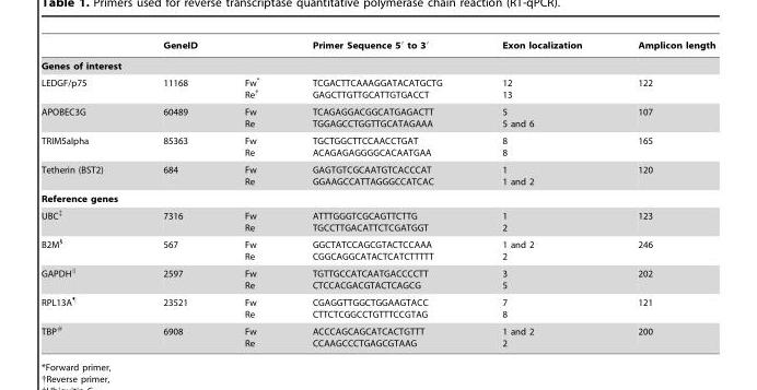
<table><thead><tr><td></td><td>GeneID</td><td></td><td>Primer Sequence 5′ to 3′</td><td>Exon localization</td><td>Amplicon length</td></tr></thead><tbody><tr><td colspan="6">Genes of interest</td></tr><tr><td>LEDGF/p75</td><td>11168</td><td>Fw* Re†</td><td>TCGACTTCAAAGGATACATGCTG GAGCTTGTTGCATTGTGACCT</td><td>12 13</td><td>122</td></tr><tr><td>APOBEC3G</td><td>60489</td><td>Fw Re</td><td>TCAGAGGACGGCATGAGACTT TGGAGCCTGGTTGCATAGAAA</td><td>5 5 and 6</td><td>107</td></tr><tr><td>TRIM5alpha</td><td>85363</td><td>Fw Re</td><td>TGCTGGCTTCCAACCTGAT ACAGAGAGGGGCACAATGAA</td><td>8 8</td><td>165</td></tr><tr><td>Tetherin (BST2)</td><td>684</td><td>Fw Re</td><td>GAGTGTCGCAATGTCACCCAT GGAAGCCATTAGGGCCATCAC</td><td>1 1 and 2</td><td>120</td></tr><tr><td colspan="6">Reference genes</td></tr><tr><td>UBC‡</td><td>7316</td><td>Fw Re</td><td>ATTTGGGTCGCAGTTCTTG TGCCTTGACATTCTCGATGGT</td><td>1 2</td><td>123</td></tr><tr><td>B2M§</td><td>567</td><td>Fw Re</td><td>GGCTATCCAGCGTACTCCAAA CGGCAGGCATACTCATCTTTTT</td><td>1 and 2 2</td><td>246</td></tr><tr><td>GAPDH∥</td><td>2597</td><td>Fw Re</td><td>TGTTGCCATCAATGACCCCTT CTCCACGACGTACTCAGCG</td><td>3 5</td><td>202</td></tr><tr><td>RPL13A¶</td><td>23521</td><td>Fw Re</td><td>CGAGGTTGGCTGGAAGTACC CTTCTCGGCCTGTTTCCGTAG</td><td>7 8</td><td>121</td></tr><tr><td>TBP#</td><td>6908</td><td>Fw Re</td><td>ACCCAGCAGCATCACTGTTT CCAAGCCCTGAGCGTAAG</td><td>1 and 2 2</td><td>200</td></tr></tbody></table>